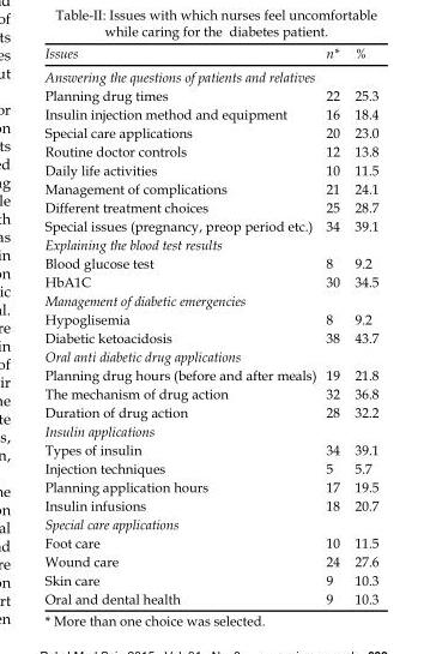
<table><thead><tr><td>Issues</td><td>n*</td><td>%</td></tr></thead><tbody><tr><td colspan="3">Answering the questions of patients and relatives</td></tr><tr><td>Planning drug times</td><td>22</td><td>25.3</td></tr><tr><td>Insulin injection method and equipment</td><td>16</td><td>18.4</td></tr><tr><td>Special care applications</td><td>20</td><td>23.0</td></tr><tr><td>Routine doctor controls</td><td>12</td><td>13.8</td></tr><tr><td>Daily life activities</td><td>10</td><td>11.5</td></tr><tr><td>Management of complications</td><td>21</td><td>24.1</td></tr><tr><td>Different treatment choices</td><td>25</td><td>28.7</td></tr><tr><td>Special issues (pregnancy, preop period etc.)</td><td>34</td><td>39.1</td></tr><tr><td colspan="3">Explaining the blood test results</td></tr><tr><td>Blood glucose test</td><td>8</td><td>9.2</td></tr><tr><td>HbA1C</td><td>30</td><td>34.5</td></tr><tr><td colspan="3">Management of diabetic emergencies</td></tr><tr><td>Hypoglisemia</td><td>8</td><td>9.2</td></tr><tr><td>Diabetic ketoacidosis</td><td>38</td><td>43.7</td></tr><tr><td colspan="3">Oral anti diabetic drug applications</td></tr><tr><td>Planning drug hours (before and after meals)</td><td>19</td><td>21.8</td></tr><tr><td>The mechanism of drug action</td><td>32</td><td>36.8</td></tr><tr><td>Duration of drug action</td><td>28</td><td>32.2</td></tr><tr><td colspan="3">Insulin applications</td></tr><tr><td>Types of insulin</td><td>34</td><td>39.1</td></tr><tr><td>Injection techniques</td><td>5</td><td>5.7</td></tr><tr><td>Planning application hours</td><td>17</td><td>19.5</td></tr><tr><td>Insulin infusions</td><td>18</td><td>20.7</td></tr><tr><td colspan="3">Special care applications</td></tr><tr><td>Foot care</td><td>10</td><td>11.5</td></tr><tr><td>Wound care</td><td>24</td><td>27.6</td></tr><tr><td>Skin care</td><td>9</td><td>10.3</td></tr><tr><td>Oral and dental health</td><td>9</td><td>10.3</td></tr></tbody></table>